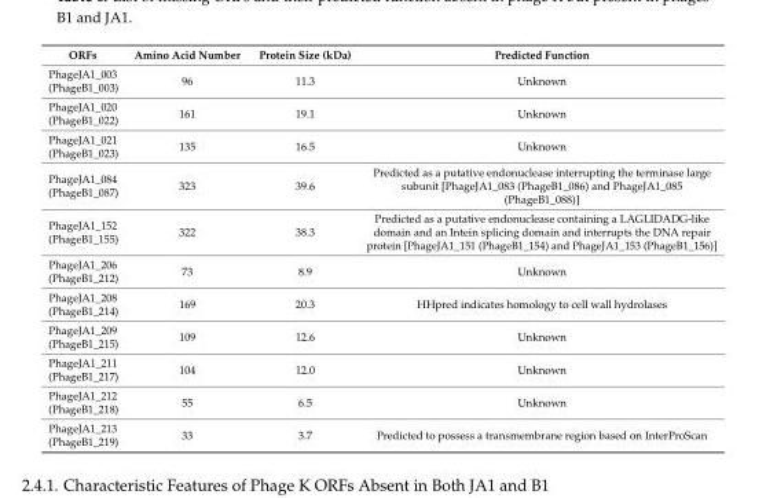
<table><thead><tr><td>ORFs</td><td>Amino Acid Number</td><td>Protein Size (kDa)</td><td>Predicted Function</td></tr></thead><tbody><tr><td>PhageJA1_003 (PhageB1_003)</td><td>96</td><td>11.3</td><td>Unknown</td></tr><tr><td>PhageJA1_020 (PhageB1_022)</td><td>161</td><td>19.1</td><td>Unknown</td></tr><tr><td>PhageJA1_021 (PhageB1_023)</td><td>135</td><td>16.5</td><td>Unknown</td></tr><tr><td>PhageJA1_084 (PhageB1_087)</td><td>323</td><td>39.6</td><td>Predicted as a putative endonuclease interrupting the terminase large subunit [PhageJA1_083 (PhageB1_086) and PhageJA1_085 (PhageB1_088)]</td></tr><tr><td>PhageJA1_152 (PhageB1_155)</td><td>322</td><td>38.3</td><td>Predicted as a putative endonuclease containing a LAGLIDADG-like domain and an Intein splicing domain and interrupts the DNA repair protein [PhageJA1_151 (PhageB1_154) and PhageJA1_153 (PhageB1_156)]</td></tr><tr><td>PhageJA1_206 (PhageB1_212)</td><td>73</td><td>8.9</td><td>Unknown</td></tr><tr><td>PhageJA1_208 (PhageB1_214)</td><td>169</td><td>20.3</td><td>HHpred indicates homology to cell wall hydrolases</td></tr><tr><td>PhageJA1_209 (PhageB1_215)</td><td>109</td><td>12.6</td><td>Unknown</td></tr><tr><td>PhageJA1_211 (PhageB1_217)</td><td>104</td><td>12.0</td><td>Unknown</td></tr><tr><td>PhageJA1_212 (PhageB1_218)</td><td>55</td><td>6.5</td><td>Unknown</td></tr><tr><td>PhageJA1_213 (PhageB1_219)</td><td>33</td><td>3.7</td><td>Predicted to possess a transmembrane region based on InterProScan</td></tr></tbody></table>